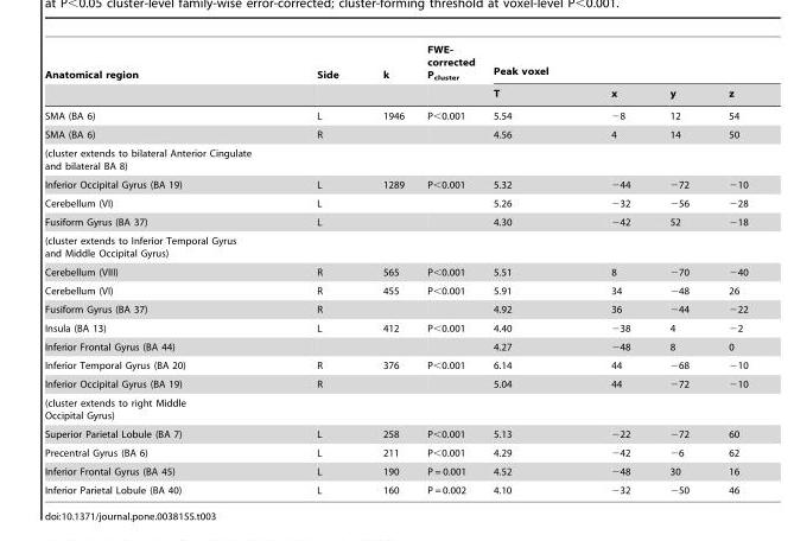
<table><thead><tr><td rowspan="2">Anatomical region</td><td rowspan="2">Side</td><td rowspan="2">k</td><td rowspan="2">FWE- corrected P<sub>cluster</sub></td><td colspan="4">Peak voxel</td></tr><tr><td>T</td><td>x</td><td>y</td><td>z</td></tr></thead><tbody><tr><td>SMA (BA 6)</td><td>L</td><td>1946</td><td>P&lt;0.001</td><td>5.54</td><td>−8</td><td>12</td><td>54</td></tr><tr><td>SMA (BA 6)</td><td>R</td><td></td><td></td><td>4.56</td><td>4</td><td>14</td><td>50</td></tr><tr><td colspan="8">(cluster extends to bilateral Anterior Cingulate and bilateral BA 8)</td></tr><tr><td>Inferior Occipital Gyrus (BA 19)</td><td>L</td><td>1289</td><td>P&lt;0.001</td><td>5.32</td><td>−44</td><td>−72</td><td>−10</td></tr><tr><td>Cerebellum (VI)</td><td>L</td><td></td><td></td><td>5.26</td><td>−32</td><td>−56</td><td>−28</td></tr><tr><td>Fusiform Gyrus (BA 37)</td><td>L</td><td></td><td></td><td>4.30</td><td>−42</td><td>52</td><td>−18</td></tr><tr><td colspan="8">(cluster extends to Inferior Temporal Gyrus and Middle Occipital Gyrus)</td></tr><tr><td>Cerebellum (VIII)</td><td>R</td><td>565</td><td>P&lt;0.001</td><td>5.51</td><td>8</td><td>−70</td><td>−40</td></tr><tr><td>Cerebellum (VI)</td><td>R</td><td>455</td><td>P&lt;0.001</td><td>5.91</td><td>34</td><td>−48</td><td>26</td></tr><tr><td>Fusiform Gyrus (BA 37)</td><td>R</td><td></td><td></td><td>4.92</td><td>36</td><td>−44</td><td>−22</td></tr><tr><td>Insula (BA 13)</td><td>L</td><td>412</td><td>P&lt;0.001</td><td>4.40</td><td>−38</td><td>4</td><td>−2</td></tr><tr><td>Inferior Frontal Gyrus (BA 44)</td><td></td><td></td><td></td><td>4.27</td><td>−48</td><td>8</td><td>0</td></tr><tr><td>Inferior Temporal Gyrus (BA 20)</td><td>R</td><td>376</td><td>P&lt;0.001</td><td>6.14</td><td>44</td><td>−68</td><td>−10</td></tr><tr><td>Inferior Occipital Gyrus (BA 19)</td><td>R</td><td></td><td></td><td>5.04</td><td>44</td><td>−72</td><td>−10</td></tr><tr><td colspan="8">(cluster extends to right Middle Occipital Gyrus)</td></tr><tr><td>Superior Parietal Lobule (BA 7)</td><td>L</td><td>258</td><td>P&lt;0.001</td><td>5.13</td><td>−22</td><td>−72</td><td>60</td></tr><tr><td>Precentral Gyrus (BA 6)</td><td>L</td><td>211</td><td>P&lt;0.001</td><td>4.29</td><td>−42</td><td>−6</td><td>62</td></tr><tr><td>Inferior Frontal Gyrus (BA 45)</td><td>L</td><td>190</td><td>P = 0.001</td><td>4.52</td><td>−48</td><td>30</td><td>16</td></tr><tr><td>Inferior Parietal Lobule (BA 40)</td><td>L</td><td>160</td><td>P = 0.002</td><td>4.10</td><td>−32</td><td>−50</td><td>46</td></tr></tbody></table>